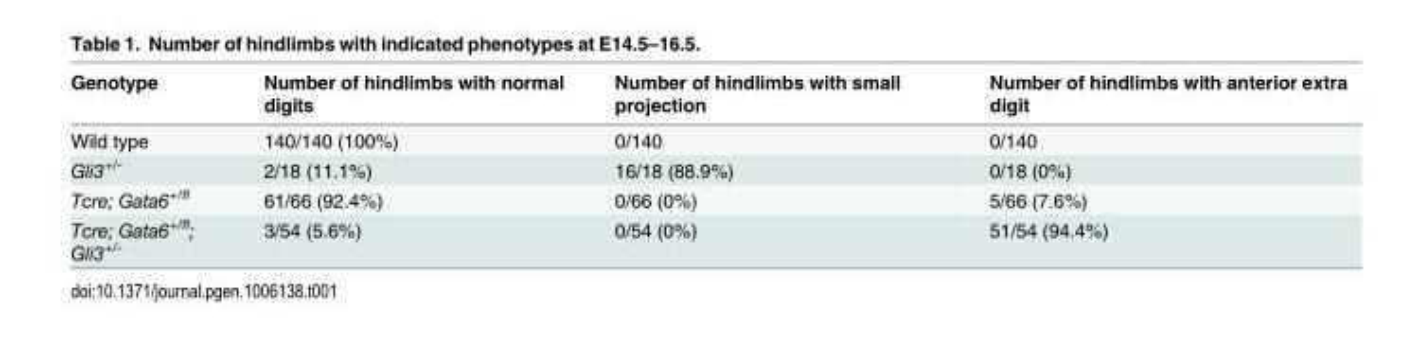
<table><thead><tr><td>Genotype</td><td>Number of hindlimbs with normal digits</td><td>Number of hindlimbs with small projection</td><td>Number of hindlimbs with anterior extra digit</td></tr></thead><tbody><tr><td>Wild type</td><td>140/140 (100%)</td><td>0/140</td><td>0/140</td></tr><tr><td>Gli3<sup>+/-</sup></td><td>2/18 (11.1%)</td><td>16/18 (88.9%)</td><td>0/18 (0%)</td></tr><tr><td>Tcre; Gata6<sup>+/fl</sup></td><td>61/66 (92.4%)</td><td>0/66 (0%)</td><td>5/66 (7.6%)</td></tr><tr><td>Tcre; Gata6<sup>+/fl</sup>; Gli3<sup>+/-</sup></td><td>3/54 (5.6%)</td><td>0/54 (0%)</td><td>51/54 (94.4%)</td></tr></tbody></table>